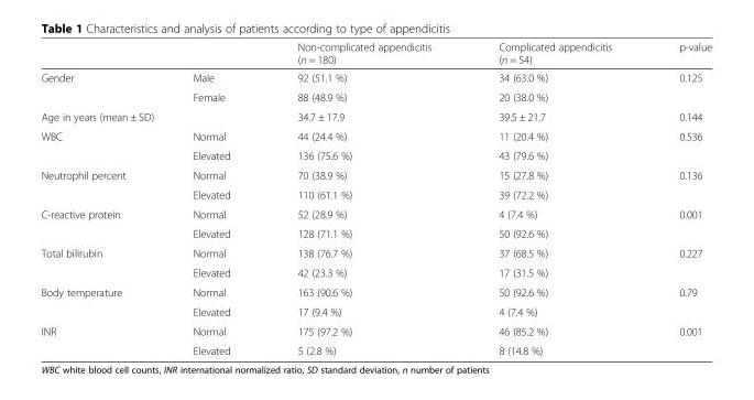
<table><thead><tr><td></td><td></td><td>Non-complicated appendicitis (n = 180)</td><td>Complicated appendicitis (n = 54)</td><td>p-value</td></tr></thead><tbody><tr><td rowspan="2">Gender</td><td>Male</td><td>92 (51.1 %)</td><td>34 (63.0 %)</td><td rowspan="2">0.125</td></tr><tr><td>Female</td><td>88 (48.9 %)</td><td>20 (38.0 %)</td></tr><tr><td colspan="2">Age in years (mean ± SD)</td><td>34.7 ± 17.9</td><td>39.5 ± 21.7</td><td>0.144</td></tr><tr><td rowspan="2">WBC</td><td>Normal</td><td>44 (24.4 %)</td><td>11 (20.4 %)</td><td rowspan="2">0.536</td></tr><tr><td>Elevated</td><td>136 (75.6 %)</td><td>43 (79.6 %)</td></tr><tr><td rowspan="2">Neutrophil percent</td><td>Normal</td><td>70 (38.9 %)</td><td>15 (27.8 %)</td><td rowspan="2">0.136</td></tr><tr><td>Elevated</td><td>110 (61.1 %)</td><td>39 (72.2 %)</td></tr><tr><td rowspan="2">C-reactive protein</td><td>Normal</td><td>52 (28.9 %)</td><td>4 (7.4 %)</td><td rowspan="2">0.001</td></tr><tr><td>Elevated</td><td>128 (71.1 %)</td><td>50 (92.6 %)</td></tr><tr><td rowspan="2">Total bilirubin</td><td>Normal</td><td>138 (76.7 %)</td><td>37 (68.5 %)</td><td rowspan="2">0.227</td></tr><tr><td>Elevated</td><td>42 (23.3 %)</td><td>17 (31.5 %)</td></tr><tr><td rowspan="2">Body temperature</td><td>Normal</td><td>163 (90.6 %)</td><td>50 (92.6 %)</td><td rowspan="2">0.79</td></tr><tr><td>Elevated</td><td>17 (9.4 %)</td><td>4 (7.4 %)</td></tr><tr><td rowspan="2">INR</td><td>Normal</td><td>175 (97.2 %)</td><td>46 (85.2 %)</td><td rowspan="2">0.001</td></tr><tr><td>Elevated</td><td>5 (2.8 %)</td><td>8 (14.8 %)</td></tr></tbody></table>